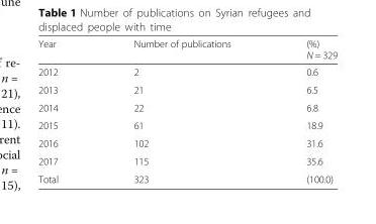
<table><thead><tr><td>Year</td><td>Number of publications</td><td>(%) N = 329</td></tr></thead><tbody><tr><td>2012</td><td>2</td><td>0.6</td></tr><tr><td>2013</td><td>21</td><td>6.5</td></tr><tr><td>2014</td><td>22</td><td>6.8</td></tr><tr><td>2015</td><td>61</td><td>18.9</td></tr><tr><td>2016</td><td>102</td><td>31.6</td></tr><tr><td>2017</td><td>115</td><td>35.6</td></tr><tr><td>Total</td><td>323</td><td>(100.0)</td></tr></tbody></table>